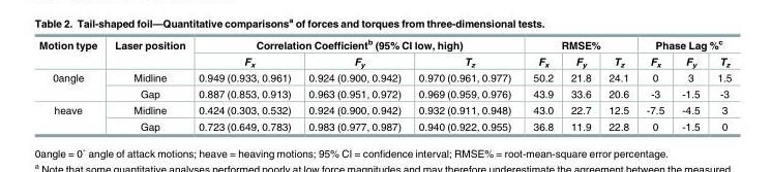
<table><thead><tr><td rowspan="2">Motion type</td><td rowspan="2">Laser position</td><td colspan="3">Correlation Coefficient<sup>b</sup> (95% CI low, high)</td><td colspan="3">RMSE%</td><td colspan="3">Phase Lag %<sup>c</sup></td></tr><tr><td>F<sub>x</sub></td><td>F<sub>y</sub></td><td>T<sub>z</sub></td><td>F<sub>x</sub></td><td>F<sub>y</sub></td><td>T<sub>z</sub></td><td>F<sub>x</sub></td><td>F<sub>y</sub></td><td>T<sub>z</sub></td></tr></thead><tbody><tr><td rowspan="2">0angle</td><td>Midline</td><td>0.949 (0.933, 0.961)</td><td>0.924 (0.900, 0.942)</td><td>0.970 (0.961, 0.977)</td><td>50.2</td><td>21.8</td><td>24.1</td><td>0</td><td>3</td><td>1.5</td></tr><tr><td>Gap</td><td>0.887 (0.853, 0.913)</td><td>0.963 (0.951, 0.972)</td><td>0.969 (0.959, 0.976)</td><td>43.9</td><td>33.6</td><td>20.6</td><td>-3</td><td>-1.5</td><td>-3</td></tr><tr><td rowspan="2">heave</td><td>Midline</td><td>0.424 (0.303, 0.532)</td><td>0.924 (0.900, 0.942)</td><td>0.932 (0.911, 0.948)</td><td>43.0</td><td>22.7</td><td>12.5</td><td>-7.5</td><td>-4.5</td><td>3</td></tr><tr><td>Gap</td><td>0.723 (0.649, 0.783)</td><td>0.983 (0.977, 0.987)</td><td>0.940 (0.922, 0.955)</td><td>36.8</td><td>11.9</td><td>22.8</td><td>0</td><td>-1.5</td><td>0</td></tr></tbody></table>